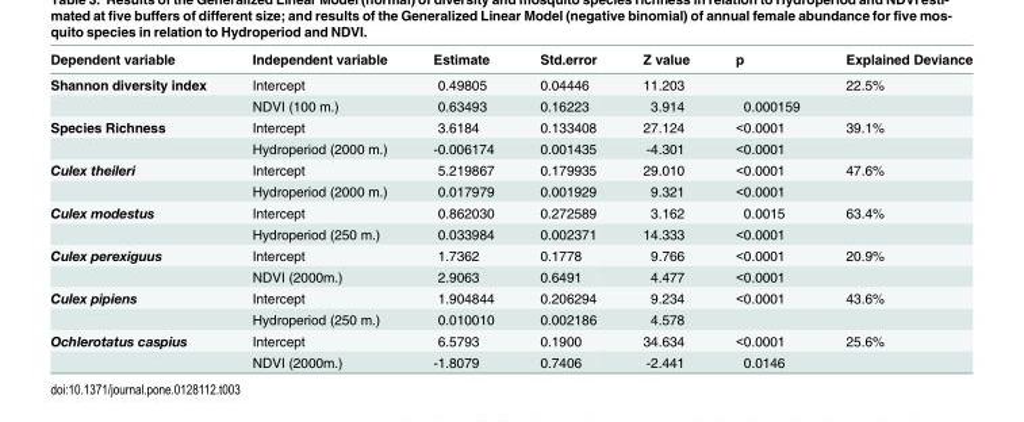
<table><thead><tr><td>Dependent variable</td><td>Independent variable</td><td>Estimate</td><td>Std.error</td><td>Z value</td><td>p</td><td>Explained Deviance</td></tr></thead><tbody><tr><td rowspan="2">Shannon diversity index</td><td>Intercept</td><td>0.49805</td><td>0.04446</td><td>11.203</td><td></td><td>22.5%</td></tr><tr><td>NDVI (100 m.)</td><td>0.63493</td><td>0.16223</td><td>3.914</td><td>0.000159</td><td></td></tr><tr><td rowspan="2">Species Richness</td><td>Intercept</td><td>3.6184</td><td>0.133408</td><td>27.124</td><td>&lt;0.0001</td><td>39.1%</td></tr><tr><td>Hydroperiod (2000 m.)</td><td>-0.006174</td><td>0.001435</td><td>-4.301</td><td>&lt;0.0001</td><td></td></tr><tr><td rowspan="2">Culex theileri</td><td>Intercept</td><td>5.219867</td><td>0.179935</td><td>29.010</td><td>&lt;0.0001</td><td>47.6%</td></tr><tr><td>Hydroperiod (2000 m.)</td><td>0.017979</td><td>0.001929</td><td>9.321</td><td>&lt;0.0001</td><td></td></tr><tr><td rowspan="2">Culex modestus</td><td>Intercept</td><td>0.862030</td><td>0.272589</td><td>3.162</td><td>0.0015</td><td>63.4%</td></tr><tr><td>Hydroperiod (250 m.)</td><td>0.033984</td><td>0.002371</td><td>14.333</td><td>&lt;0.0001</td><td></td></tr><tr><td rowspan="2">Culex perexiguus</td><td>Intercept</td><td>1.7362</td><td>0.1778</td><td>9.766</td><td>&lt;0.0001</td><td>20.9%</td></tr><tr><td>NDVI (2000m.)</td><td>2.9063</td><td>0.6491</td><td>4.477</td><td>&lt;0.0001</td><td></td></tr><tr><td rowspan="2">Culex pipiens</td><td>Intercept</td><td>1.904844</td><td>0.206294</td><td>9.234</td><td>&lt;0.0001</td><td>43.6%</td></tr><tr><td>Hydroperiod (250 m.)</td><td>0.010010</td><td>0.002186</td><td>4.578</td><td></td><td></td></tr><tr><td rowspan="2">Ochlerotatus caspius</td><td>Intercept</td><td>6.5793</td><td>0.1900</td><td>34.634</td><td>&lt;0.0001</td><td>25.6%</td></tr><tr><td>NDVI (2000m.)</td><td>-1.8079</td><td>0.7406</td><td>-2.441</td><td>0.0146</td><td></td></tr></tbody></table>